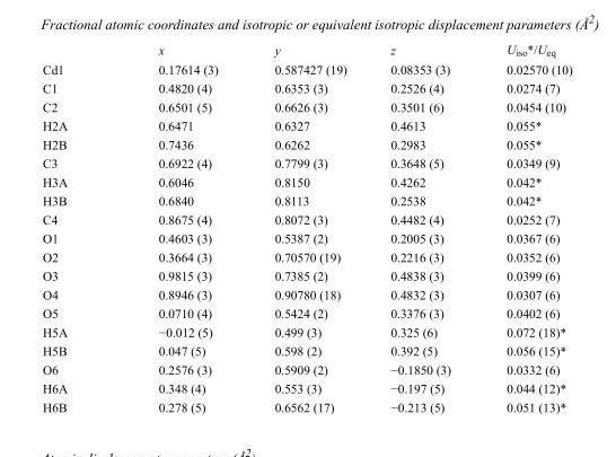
<table><thead><tr><td></td><td>x</td><td>y</td><td>z</td><td>U<sub>iso</sub>*/U<sub>eq</sub></td></tr></thead><tbody><tr><td>Cd1</td><td>0.17614 (3)</td><td>0.587427 (19)</td><td>0.08353 (3)</td><td>0.02570 (10)</td></tr><tr><td>C1</td><td>0.4820 (4)</td><td>0.6353 (3)</td><td>0.2526 (4)</td><td>0.0274 (7)</td></tr><tr><td>C2</td><td>0.6501 (5)</td><td>0.6626 (3)</td><td>0.3501 (6)</td><td>0.0454 (10)</td></tr><tr><td>H2A</td><td>0.6471</td><td>0.6327</td><td>0.4613</td><td>0.055*</td></tr><tr><td>H2B</td><td>0.7436</td><td>0.6262</td><td>0.2983</td><td>0.055*</td></tr><tr><td>C3</td><td>0.6922 (4)</td><td>0.7799 (3)</td><td>0.3648 (5)</td><td>0.0349 (9)</td></tr><tr><td>H3A</td><td>0.6046</td><td>0.8150</td><td>0.4262</td><td>0.042*</td></tr><tr><td>H3B</td><td>0.6840</td><td>0.8113</td><td>0.2538</td><td>0.042*</td></tr><tr><td>C4</td><td>0.8675 (4)</td><td>0.8072 (3)</td><td>0.4482 (4)</td><td>0.0252 (7)</td></tr><tr><td>O1</td><td>0.4603 (3)</td><td>0.5387 (2)</td><td>0.2005 (3)</td><td>0.0367 (6)</td></tr><tr><td>O2</td><td>0.3664 (3)</td><td>0.70570 (19)</td><td>0.2216 (3)</td><td>0.0352 (6)</td></tr><tr><td>O3</td><td>0.9815 (3)</td><td>0.7385 (2)</td><td>0.4838 (3)</td><td>0.0399 (6)</td></tr><tr><td>O4</td><td>0.8946 (3)</td><td>0.90780 (18)</td><td>0.4832 (3)</td><td>0.0307 (6)</td></tr><tr><td>O5</td><td>0.0710 (4)</td><td>0.5424 (2)</td><td>0.3376 (3)</td><td>0.0402 (6)</td></tr><tr><td>H5A</td><td>−0.012 (5)</td><td>0.499 (3)</td><td>0.325 (6)</td><td>0.072 (18)*</td></tr><tr><td>H5B</td><td>0.047 (5)</td><td>0.598 (2)</td><td>0.392 (5)</td><td>0.056 (15)*</td></tr><tr><td>O6</td><td>0.2576 (3)</td><td>0.5909 (2)</td><td>−0.1850 (3)</td><td>0.0332 (6)</td></tr><tr><td>H6A</td><td>0.348 (4)</td><td>0.553 (3)</td><td>−0.197 (5)</td><td>0.044 (12)*</td></tr><tr><td>H6B</td><td>0.278 (5)</td><td>0.6562 (17)</td><td>−0.213 (5)</td><td>0.051 (13)*</td></tr></tbody></table>